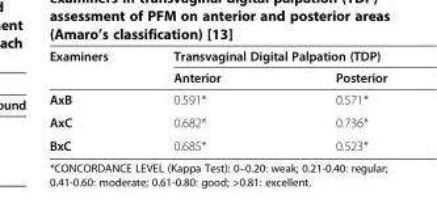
<table><thead><tr><td rowspan="2">Examiners</td><td colspan="2">Transvaginal Digital Palpation (TDP)</td></tr><tr><td>Anterior</td><td>Posterior</td></tr></thead><tbody><tr><td>AxB</td><td>0.591*</td><td>0.571*</td></tr><tr><td>AxC</td><td>0.682*</td><td>0.736*</td></tr><tr><td>BxC</td><td>0.685*</td><td>0.523*</td></tr></tbody></table>